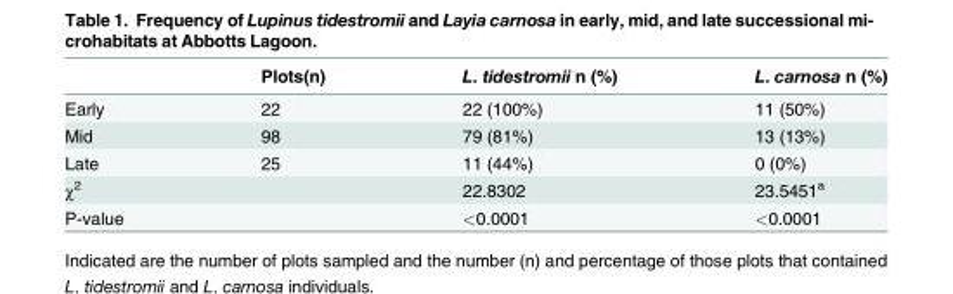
<table><thead><tr><td></td><td>Plots(n)</td><td>L. tidestromii n (%)</td><td>L. carnosa n (%)</td></tr></thead><tbody><tr><td>Early</td><td>22</td><td>22 (100%)</td><td>11 (50%)</td></tr><tr><td>Mid</td><td>98</td><td>79 (81%)</td><td>13 (13%)</td></tr><tr><td>Late</td><td>25</td><td>11 (44%)</td><td>0 (0%)</td></tr><tr><td>χ<sup>2</sup></td><td></td><td>22.8302</td><td>23.5451<sup>a</sup></td></tr><tr><td>P-value</td><td></td><td>&lt;0.0001</td><td>&lt;0.0001</td></tr></tbody></table>